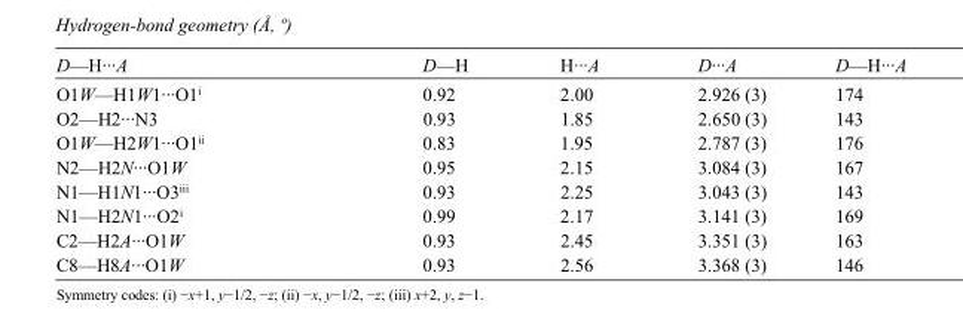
<table><tbody><tr><td>D—H···A</td><td>D—H</td><td>H···A</td><td>D···A</td><td>D—H···A</td></tr><tr><td>O1W—H1W1···O1<sup>i</sup></td><td>0.92</td><td>2.00</td><td>2.926 (3)</td><td>174</td></tr><tr><td>O2—H2···N3</td><td>0.93</td><td>1.85</td><td>2.650 (3)</td><td>143</td></tr><tr><td>O1W—H2W1···O1<sup>ii</sup></td><td>0.83</td><td>1.95</td><td>2.787 (3)</td><td>176</td></tr><tr><td>N2—H2N···O1W</td><td>0.95</td><td>2.15</td><td>3.084 (3)</td><td>167</td></tr><tr><td>N1—H1N1···O3<sup>iii</sup></td><td>0.93</td><td>2.25</td><td>3.043 (3)</td><td>143</td></tr><tr><td>N1—H2N1···O2<sup>i</sup></td><td>0.99</td><td>2.17</td><td>3.141 (3)</td><td>169</td></tr><tr><td>C2—H2A···O1W</td><td>0.93</td><td>2.45</td><td>3.351 (3)</td><td>163</td></tr><tr><td>C8—H8A···O1W</td><td>0.93</td><td>2.56</td><td>3.368 (3)</td><td>146</td></tr></tbody></table>